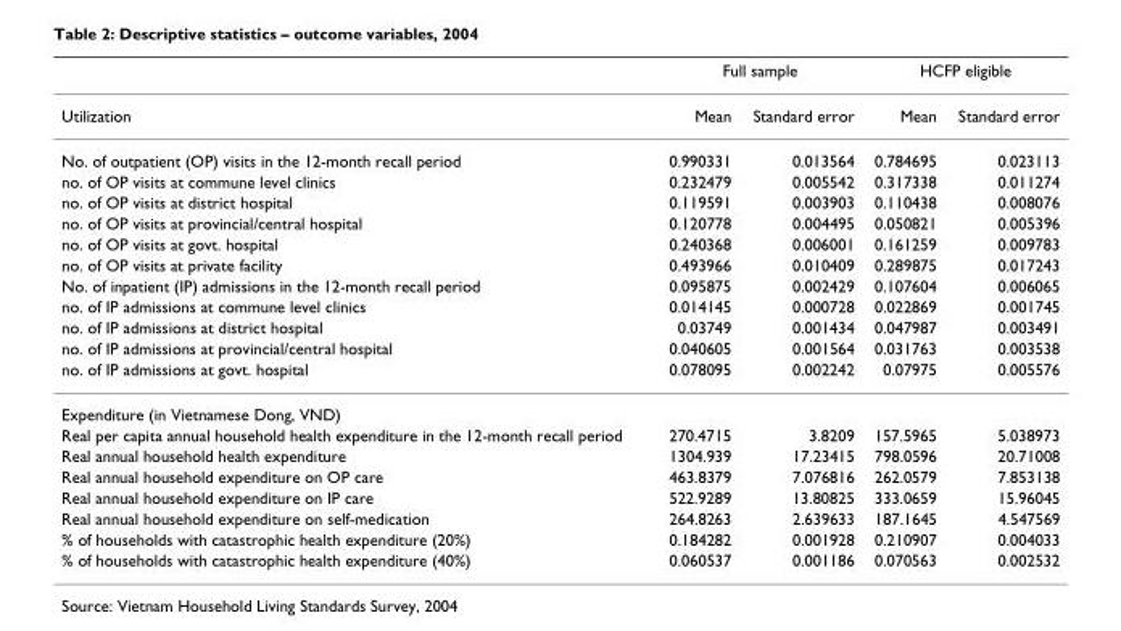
<table><thead><tr><td rowspan="2">Utilization</td><td colspan="2">Full sample</td><td colspan="2">HCFP eligible</td></tr><tr><td>Mean</td><td>Standard error</td><td>Mean</td><td>Standard error</td></tr></thead><tbody><tr><td>No. of outpatient (OP) visits in the 12-month recall period</td><td>0.990331</td><td>0.013564</td><td>0.784695</td><td>0.023113</td></tr><tr><td>no. of OP visits at commune level clinics</td><td>0.232479</td><td>0.005542</td><td>0.317338</td><td>0.011274</td></tr><tr><td>no. of OP visits at district hospital</td><td>0.119591</td><td>0.003903</td><td>0.110438</td><td>0.008076</td></tr><tr><td>no. of OP visits at provincial/central hospital</td><td>0.120778</td><td>0.004495</td><td>0.050821</td><td>0.005396</td></tr><tr><td>no. of OP visits at govt. hospital</td><td>0.240368</td><td>0.006001</td><td>0.161259</td><td>0.009783</td></tr><tr><td>no. of OP visits at private facility</td><td>0.493966</td><td>0.010409</td><td>0.289875</td><td>0.017243</td></tr><tr><td>No. of inpatient (IP) admissions in the 12-month recall period</td><td>0.095875</td><td>0.002429</td><td>0.107604</td><td>0.006065</td></tr><tr><td>no. of IP admissions at commune level clinics</td><td>0.014145</td><td>0.000728</td><td>0.022869</td><td>0.001745</td></tr><tr><td>no. of IP admissions at district hospital</td><td>0.03749</td><td>0.001434</td><td>0.047987</td><td>0.003491</td></tr><tr><td>no. of IP admissions at provincial/central hospital</td><td>0.040605</td><td>0.001564</td><td>0.031763</td><td>0.003538</td></tr><tr><td>no. of IP admissions at govt. hospital</td><td>0.078095</td><td>0.002242</td><td>0.07975</td><td>0.005576</td></tr><tr><td colspan="5">Expenditure (in Vietnamese Dong, VND)</td></tr><tr><td>Real per capita annual household health expenditure in the 12-month recall period</td><td>270.4715</td><td>3.8209</td><td>157.5965</td><td>5.038973</td></tr><tr><td>Real annual household health expenditure</td><td>1304.939</td><td>17.23415</td><td>798.0596</td><td>20.71008</td></tr><tr><td>Real annual household expenditure on OP care</td><td>463.8379</td><td>7.076816</td><td>262.0579</td><td>7.853138</td></tr><tr><td>Real annual household expenditure on IP care</td><td>522.9289</td><td>13.80825</td><td>333.0659</td><td>15.96045</td></tr><tr><td>Real annual household expenditure on self-medication</td><td>264.8263</td><td>2.639633</td><td>187.1645</td><td>4.547569</td></tr><tr><td>% of households with catastrophic health expenditure (20%)</td><td>0.184282</td><td>0.001928</td><td>0.210907</td><td>0.004033</td></tr><tr><td>% of households with catastrophic health expenditure (40%)</td><td>0.060537</td><td>0.001186</td><td>0.070563</td><td>0.002532</td></tr></tbody></table>